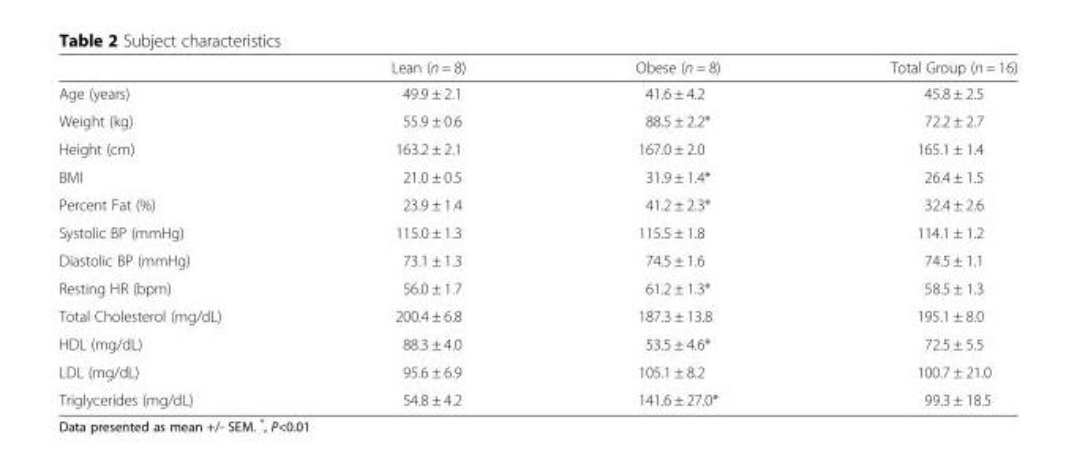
<table><thead><tr><td></td><td>Lean (n = 8)</td><td>Obese (n = 8)</td><td>Total Group (n = 16)</td></tr></thead><tbody><tr><td>Age (years)</td><td>49.9 ± 2.1</td><td>41.6 ± 4.2</td><td>45.8 ± 2.5</td></tr><tr><td>Weight (kg)</td><td>55.9 ± 0.6</td><td>88.5 ± 2.2*</td><td>72.2 ± 2.7</td></tr><tr><td>Height (cm)</td><td>163.2 ± 2.1</td><td>167.0 ± 2.0</td><td>165.1 ± 1.4</td></tr><tr><td>BMI</td><td>21.0 ± 0.5</td><td>31.9 ± 1.4*</td><td>26.4 ± 1.5</td></tr><tr><td>Percent Fat (%)</td><td>23.9 ± 1.4</td><td>41.2 ± 2.3*</td><td>32.4 ± 2.6</td></tr><tr><td>Systolic BP (mmHg)</td><td>115.0 ± 1.3</td><td>115.5 ± 1.8</td><td>114.1 ± 1.2</td></tr><tr><td>Diastolic BP (mmHg)</td><td>73.1 ± 1.3</td><td>74.5 ± 1.6</td><td>74.5 ± 1.1</td></tr><tr><td>Resting HR (bpm)</td><td>56.0 ± 1.7</td><td>61.2 ± 1.3*</td><td>58.5 ± 1.3</td></tr><tr><td>Total Cholesterol (mg/dL)</td><td>200.4 ± 6.8</td><td>187.3 ± 13.8</td><td>195.1 ± 8.0</td></tr><tr><td>HDL (mg/dL)</td><td>88.3 ± 4.0</td><td>53.5 ± 4.6*</td><td>72.5 ± 5.5</td></tr><tr><td>LDL (mg/dL)</td><td>95.6 ± 6.9</td><td>105.1 ± 8.2</td><td>100.7 ± 21.0</td></tr><tr><td>Triglycerides (mg/dL)</td><td>54.8 ± 4.2</td><td>141.6 ± 27.0*</td><td>99.3 ± 18.5</td></tr></tbody></table>